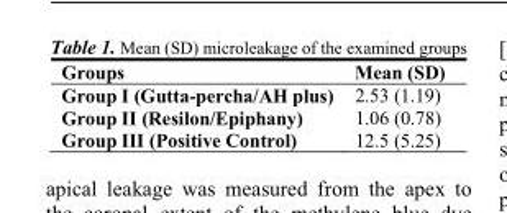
<table><thead><tr><td>Groups</td><td>Mean (SD)</td></tr></thead><tbody><tr><td>Group I (Gutta-percha/AH plus)</td><td>2.53 (1.19)</td></tr><tr><td>Group II (Resilon/Epiphany)</td><td>1.06 (0.78)</td></tr><tr><td>Group III (Positive Control)</td><td>12.5 (5.25)</td></tr></tbody></table>